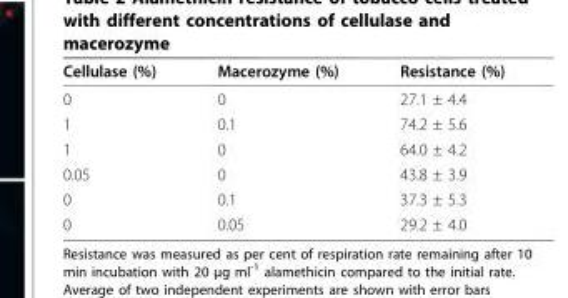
<table><thead><tr><td>Cellulase (%)</td><td>Macerozyme (%)</td><td>Resistance (%)</td></tr></thead><tbody><tr><td>0</td><td>0</td><td>27.1 ± 4.4</td></tr><tr><td>1</td><td>0.1</td><td>74.2 ± 5.6</td></tr><tr><td>1</td><td>0</td><td>64.0 ± 4.2</td></tr><tr><td>0.05</td><td>0</td><td>43.8 ± 3.9</td></tr><tr><td>0</td><td>0.1</td><td>37.3 ± 5.3</td></tr><tr><td>0</td><td>0.05</td><td>29.2 ± 4.0</td></tr></tbody></table>